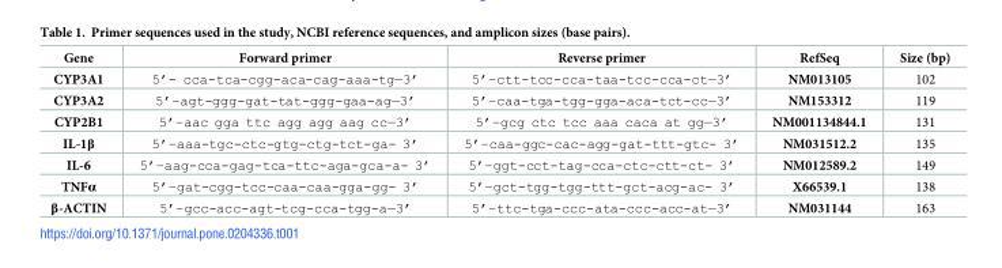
<table><thead><tr><td>Gene</td><td>Forward primer</td><td>Reverse primer</td><td>RefSeq</td><td>Size (bp)</td></tr></thead><tbody><tr><td>CYP3A1</td><td>5’- cca-tca-cgg-aca-cag-aaa-tg—3’</td><td>5’–ctt-tcc-cca-taa-tcc-cca-ct—3’</td><td>NM013105</td><td>102</td></tr><tr><td>CYP3A2</td><td>5’–agt-ggg-gat-tat-ggg-gaa-ag—3’</td><td>5’–caa-tga-tgg-gga-aca-tct-cc—3’</td><td>NM153312</td><td>119</td></tr><tr><td>CYP2B1</td><td>5’–aac gga ttc agg agg aag cc—3’</td><td>5’–gcg ctc tcc aaa caca at gg—3’</td><td>NM001134844.1</td><td>131</td></tr><tr><td>IL-1β</td><td>5’–aaa-tgc-ctc-gtg-ctg-tct-ga- 3’</td><td>5’–caa-ggc-cac-agg-gat-ttt-gtc- 3’</td><td>NM031512.2</td><td>135</td></tr><tr><td>IL-6</td><td>5’–aag-cca-gag-tca-ttc-aga-gca-a- 3’</td><td>5’–ggt-cct-tag-cca-ctc-ctt-ct- 3’</td><td>NM012589.2</td><td>149</td></tr><tr><td>TNFα</td><td>5’–gat-cgg-tcc-caa-caa-gga-gg- 3’</td><td>5’–gct-tgg-tgg-ttt-gct-acg-ac- 3’</td><td>X66539.1</td><td>138</td></tr><tr><td>β-ACTIN</td><td>5’–gcc-acc-agt-tcg-cca-tgg-a—3’</td><td>5’–ttc-tga-ccc-ata-ccc-acc-at—3’</td><td>NM031144</td><td>163</td></tr></tbody></table>